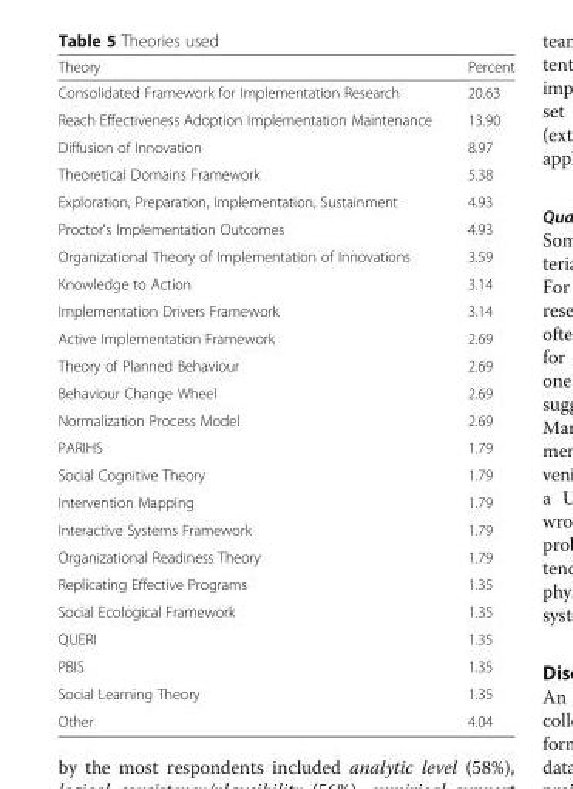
<table><thead><tr><td>Theory</td><td>Percent</td></tr></thead><tbody><tr><td>Consolidated Framework for Implementation Research</td><td>20.63</td></tr><tr><td>Reach Effectiveness Adoption Implementation Maintenance</td><td>13.90</td></tr><tr><td>Diffusion of Innovation</td><td>8.97</td></tr><tr><td>Theoretical Domains Framework</td><td>5.38</td></tr><tr><td>Exploration, Preparation, Implementation, Sustainment</td><td>4.93</td></tr><tr><td>Proctor’s Implementation Outcomes</td><td>4.93</td></tr><tr><td>Organizational Theory of Implementation of Innovations</td><td>3.59</td></tr><tr><td>Knowledge to Action</td><td>3.14</td></tr><tr><td>Implementation Drivers Framework</td><td>3.14</td></tr><tr><td>Active Implementation Framework</td><td>2.69</td></tr><tr><td>Theory of Planned Behaviour</td><td>2.69</td></tr><tr><td>Behaviour Change Wheel</td><td>2.69</td></tr><tr><td>Normalization Process Model</td><td>2.69</td></tr><tr><td>PARIHS</td><td>1.79</td></tr><tr><td>Social Cognitive Theory</td><td>1.79</td></tr><tr><td>Intervention Mapping</td><td>1.79</td></tr><tr><td>Interactive Systems Framework</td><td>1.79</td></tr><tr><td>Organizational Readiness Theory</td><td>1.79</td></tr><tr><td>Replicating Effective Programs</td><td>1.35</td></tr><tr><td>Social Ecological Framework</td><td>1.35</td></tr><tr><td>QUERI</td><td>1.35</td></tr><tr><td>PBIS</td><td>1.35</td></tr><tr><td>Social Learning Theory</td><td>1.35</td></tr><tr><td>Other</td><td>4.04</td></tr></tbody></table>